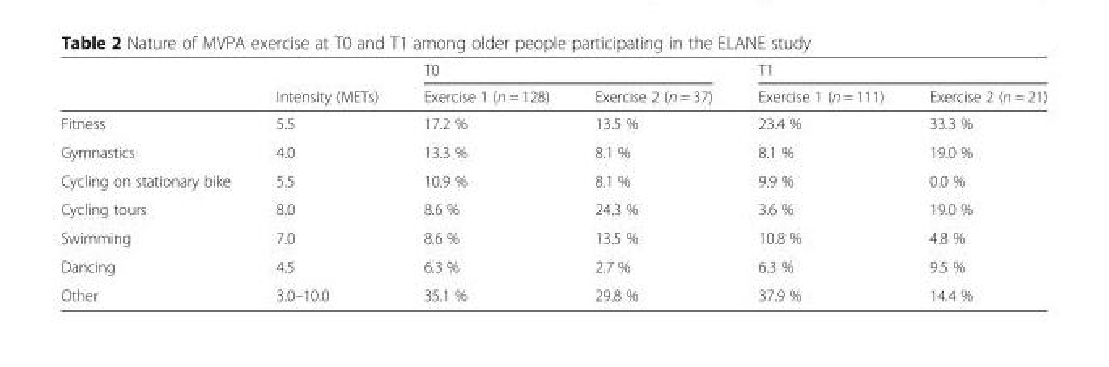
<table><thead><tr><td rowspan="2"></td><td rowspan="2">Intensity (METs)</td><td colspan="2">T0</td><td colspan="2">T1</td></tr><tr><td>Exercise 1 (n = 128)</td><td>Exercise 2 (n = 37)</td><td>Exercise 1 (n = 111)</td><td>Exercise 2 (n = 21)</td></tr></thead><tbody><tr><td>Fitness</td><td>5.5</td><td>17.2 %</td><td>13.5 %</td><td>23.4 %</td><td>33.3 %</td></tr><tr><td>Gymnastics</td><td>4.0</td><td>13.3 %</td><td>8.1 %</td><td>8.1 %</td><td>19.0 %</td></tr><tr><td>Cycling on stationary bike</td><td>5.5</td><td>10.9 %</td><td>8.1 %</td><td>9.9 %</td><td>0.0 %</td></tr><tr><td>Cycling tours</td><td>8.0</td><td>8.6 %</td><td>24.3 %</td><td>3.6 %</td><td>19.0 %</td></tr><tr><td>Swimming</td><td>7.0</td><td>8.6 %</td><td>13.5 %</td><td>10.8 %</td><td>4.8 %</td></tr><tr><td>Dancing</td><td>4.5</td><td>6.3 %</td><td>2.7 %</td><td>6.3 %</td><td>9.5 %</td></tr><tr><td>Other</td><td>3.0–10.0</td><td>35.1 %</td><td>29.8 %</td><td>37.9 %</td><td>14.4 %</td></tr></tbody></table>